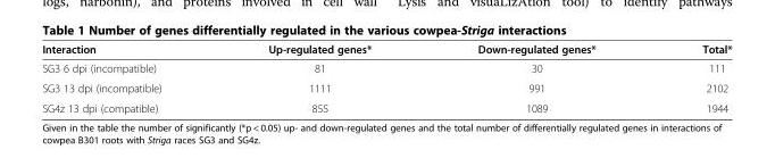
<table><thead><tr><td>Interaction</td><td>Up-regulated genes*</td><td>Down-regulated genes*</td><td>Total*</td></tr></thead><tbody><tr><td>SG3 6 dpi (incompatible)</td><td>81</td><td>30</td><td>111</td></tr><tr><td>SG3 13 dpi (incompatible)</td><td>1111</td><td>991</td><td>2102</td></tr><tr><td>SG4z 13 dpi (compatible)</td><td>855</td><td>1089</td><td>1944</td></tr></tbody></table>